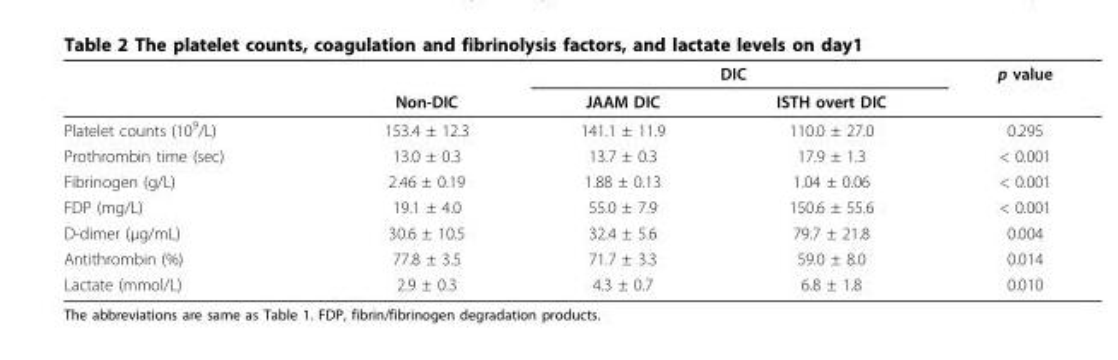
<table><thead><tr><td rowspan="2"></td><td rowspan="2">Non-DIC</td><td colspan="2">DIC</td><td rowspan="2">p value</td></tr><tr><td>JAAM DIC</td><td>ISTH overt DIC</td></tr></thead><tbody><tr><td>Platelet counts (10<sup>9</sup>/L)</td><td>153.4 ± 12.3</td><td>141.1 ± 11.9</td><td>110.0 ± 27.0</td><td>0.295</td></tr><tr><td>Prothrombin time (sec)</td><td>13.0 ± 0.3</td><td>13.7 ± 0.3</td><td>17.9 ± 1.3</td><td>&lt; 0.001</td></tr><tr><td>Fibrinogen (g/L)</td><td>2.46 ± 0.19</td><td>1.88 ± 0.13</td><td>1.04 ± 0.06</td><td>&lt; 0.001</td></tr><tr><td>FDP (mg/L)</td><td>19.1 ± 4.0</td><td>55.0 ± 7.9</td><td>150.6 ± 55.6</td><td>&lt; 0.001</td></tr><tr><td>D-dimer (μg/mL)</td><td>30.6 ± 10.5</td><td>32.4 ± 5.6</td><td>79.7 ± 21.8</td><td>0.004</td></tr><tr><td>Antithrombin (%)</td><td>77.8 ± 3.5</td><td>71.7 ± 3.3</td><td>59.0 ± 8.0</td><td>0.014</td></tr><tr><td>Lactate (mmol/L)</td><td>2.9 ± 0.3</td><td>4.3 ± 0.7</td><td>6.8 ± 1.8</td><td>0.010</td></tr></tbody></table>